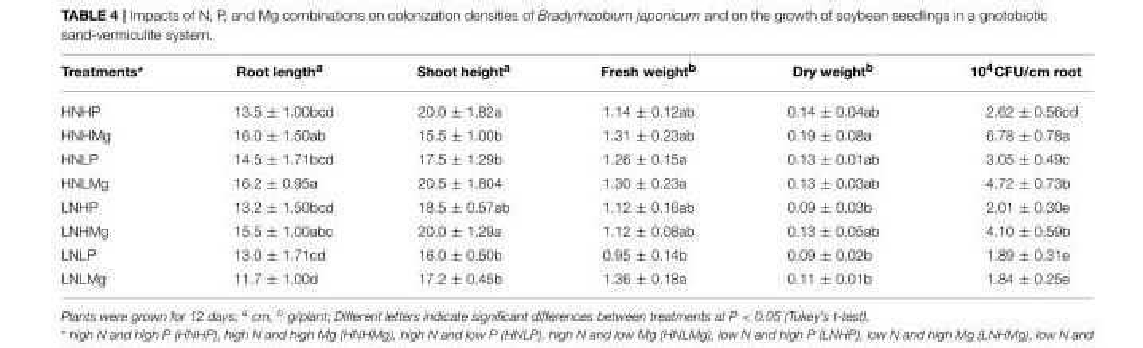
<table><thead><tr><td>Treatments*</td><td>Root length<sup>a</sup></td><td>Shoot height<sup>a</sup></td><td>Fresh weight<sup>b</sup></td><td>Dry weight<sup>b</sup></td><td>10<sup>4</sup>CFU/cm root</td></tr></thead><tbody><tr><td>HNHP</td><td>13.5 ± 1.00bcd</td><td>20.0 ± 1.82a</td><td>1.14 ± 0.12ab</td><td>0.14 ± 0.04ab</td><td>2.62 ± 0.56cd</td></tr><tr><td>HNHMg</td><td>16.0 ± 1.50ab</td><td>15.5 ± 1.00b</td><td>1.31 ± 0.23ab</td><td>0.19 ± 0.08a</td><td>6.78 ± 0.78a</td></tr><tr><td>HNLP</td><td>14.5 ± 1.71bcd</td><td>17.5 ± 1.29b</td><td>1.26 ± 0.15a</td><td>0.13 ± 0.01ab</td><td>3.05 ± 0.49c</td></tr><tr><td>HNLMg</td><td>16.2 ± 0.95a</td><td>20.5 ± 1.804</td><td>1.30 ± 0.23a</td><td>0.13 ± 0.03ab</td><td>4.72 ± 0.73b</td></tr><tr><td>LNHP</td><td>13.2 ± 1.50bcd</td><td>18.5 ± 0.57ab</td><td>1.12 ± 0.16ab</td><td>0.09 ± 0.03b</td><td>2.01 ± 0.30e</td></tr><tr><td>LNHMg</td><td>15.5 ± 1.00abc</td><td>20.0 ± 1.29a</td><td>1.12 ± 0.08ab</td><td>0.13 ± 0.05ab</td><td>4.10 ± 0.59b</td></tr><tr><td>LNLP</td><td>13.0 ± 1.71cd</td><td>16.0 ± 0.50b</td><td>0.95 ± 0.14b</td><td>0.09 ± 0.02b</td><td>1.89 ± 0.31e</td></tr><tr><td>LNLMg</td><td>11.7 ± 1.00d</td><td>17.2 ± 0.45b</td><td>1.36 ± 0.18a</td><td>0.11 ± 0.01b</td><td>1.84 ± 0.25e</td></tr></tbody></table>